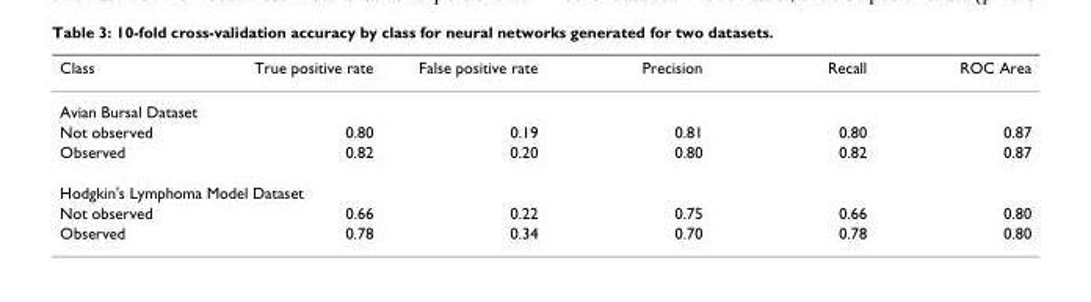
<table><thead><tr><td>Class</td><td>True positive rate</td><td>False positive rate</td><td>Precision</td><td>Recall</td><td>ROC Area</td></tr></thead><tbody><tr><td colspan="6">Avian Bursal Dataset</td></tr><tr><td>Not observed</td><td>0.80</td><td>0.19</td><td>0.81</td><td>0.80</td><td>0.87</td></tr><tr><td>Observed</td><td>0.82</td><td>0.20</td><td>0.80</td><td>0.82</td><td>0.87</td></tr><tr><td colspan="6">Hodgkin&#x27;s Lymphoma Model Dataset</td></tr><tr><td>Not observed</td><td>0.66</td><td>0.22</td><td>0.75</td><td>0.66</td><td>0.80</td></tr><tr><td>Observed</td><td>0.78</td><td>0.34</td><td>0.70</td><td>0.78</td><td>0.80</td></tr></tbody></table>